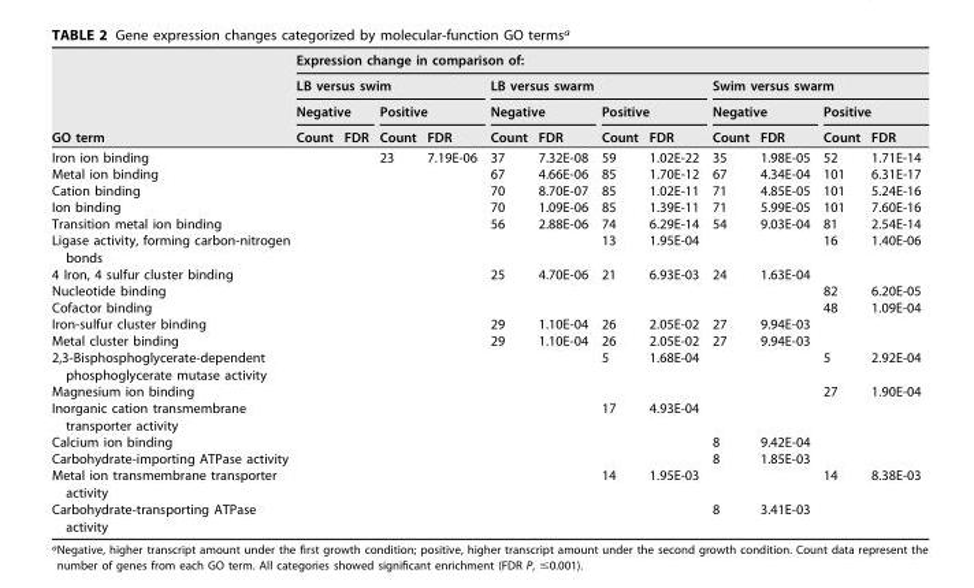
<table><thead><tr><td rowspan="4">GO term</td><td colspan="12">Expression change in comparison of:</td></tr><tr><td colspan="4">LB versus swim</td><td colspan="4">LB versus swarm</td><td colspan="4">Swim versus swarm</td></tr><tr><td colspan="2">Negative</td><td colspan="2">Positive</td><td colspan="2">Negative</td><td colspan="2">Positive</td><td colspan="2">Negative</td><td colspan="2">Positive</td></tr><tr><td>Count</td><td>FDR</td><td>Count</td><td>FDR</td><td>Count</td><td>FDR</td><td>Count</td><td>FDR</td><td>Count</td><td>FDR</td><td>Count</td><td>FDR</td></tr></thead><tbody><tr><td>Iron ion binding</td><td></td><td></td><td>23</td><td>7.19E-06</td><td>37</td><td>7.32E-08</td><td>59</td><td>1.02E-22</td><td>35</td><td>1.98E-05</td><td>52</td><td>1.71E-14</td></tr><tr><td>Metal ion binding</td><td></td><td></td><td></td><td></td><td>67</td><td>4.66E-06</td><td>85</td><td>1.70E-12</td><td>67</td><td>4.34E-04</td><td>101</td><td>6.31E-17</td></tr><tr><td>Cation binding</td><td></td><td></td><td></td><td></td><td>70</td><td>8.70E-07</td><td>85</td><td>1.02E-11</td><td>71</td><td>4.85E-05</td><td>101</td><td>5.24E-16</td></tr><tr><td>Ion binding</td><td></td><td></td><td></td><td></td><td>70</td><td>1.09E-06</td><td>85</td><td>1.39E-11</td><td>71</td><td>5.99E-05</td><td>101</td><td>7.60E-16</td></tr><tr><td>Transition metal ion binding</td><td></td><td></td><td></td><td></td><td>56</td><td>2.88E-06</td><td>74</td><td>6.29E-14</td><td>54</td><td>9.03E-04</td><td>81</td><td>2.54E-14</td></tr><tr><td>Ligase activity, forming carbon-nitrogen bonds</td><td></td><td></td><td></td><td></td><td></td><td></td><td>13</td><td>1.95E-04</td><td></td><td></td><td>16</td><td>1.40E-06</td></tr><tr><td>4 Iron, 4 sulfur cluster binding</td><td></td><td></td><td></td><td></td><td>25</td><td>4.70E-06</td><td>21</td><td>6.93E-03</td><td>24</td><td>1.63E-04</td><td></td><td></td></tr><tr><td>Nucleotide binding</td><td></td><td></td><td></td><td></td><td></td><td></td><td></td><td></td><td></td><td></td><td>82</td><td>6.20E-05</td></tr><tr><td>Cofactor binding</td><td></td><td></td><td></td><td></td><td></td><td></td><td></td><td></td><td></td><td></td><td>48</td><td>1.09E-04</td></tr><tr><td>Iron-sulfur cluster binding</td><td></td><td></td><td></td><td></td><td>29</td><td>1.10E-04</td><td>26</td><td>2.05E-02</td><td>27</td><td>9.94E-03</td><td></td><td></td></tr><tr><td>Metal cluster binding</td><td></td><td></td><td></td><td></td><td>29</td><td>1.10E-04</td><td>26</td><td>2.05E-02</td><td>27</td><td>9.94E-03</td><td></td><td></td></tr><tr><td>2,3-Bisphosphoglycerate-dependent phosphoglycerate mutase activity</td><td></td><td></td><td></td><td></td><td></td><td></td><td>5</td><td>1.68E-04</td><td></td><td></td><td>5</td><td>2.92E-04</td></tr><tr><td>Magnesium ion binding</td><td></td><td></td><td></td><td></td><td></td><td></td><td></td><td></td><td></td><td></td><td>27</td><td>1.90E-04</td></tr><tr><td>Inorganic cation transmembrane transporter activity</td><td></td><td></td><td></td><td></td><td></td><td></td><td>17</td><td>4.93E-04</td><td></td><td></td><td></td><td></td></tr><tr><td>Calcium ion binding</td><td></td><td></td><td></td><td></td><td></td><td></td><td></td><td></td><td>8</td><td>9.42E-04</td><td></td><td></td></tr><tr><td>Carbohydrate-importing ATPase activity</td><td></td><td></td><td></td><td></td><td></td><td></td><td></td><td></td><td>8</td><td>1.85E-03</td><td></td><td></td></tr><tr><td>Metal ion transmembrane transporter activity</td><td></td><td></td><td></td><td></td><td></td><td></td><td>14</td><td>1.95E-03</td><td></td><td></td><td>14</td><td>8.38E-03</td></tr><tr><td>Carbohydrate-transporting ATPase activity</td><td></td><td></td><td></td><td></td><td></td><td></td><td></td><td></td><td>8</td><td>3.41E-03</td><td></td><td></td></tr></tbody></table>